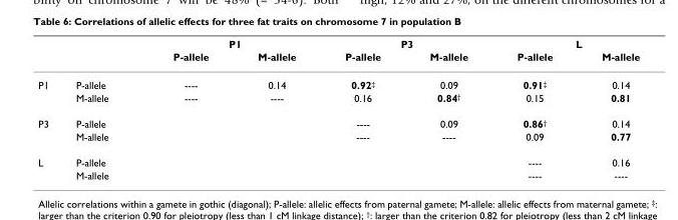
<table><thead><tr><td rowspan="2"></td><td rowspan="2"></td><td colspan="2">P1</td><td colspan="2">P3</td><td colspan="2">L</td></tr><tr><td>P-allele</td><td>M-allele</td><td>P-allele</td><td>M-allele</td><td>P-allele</td><td>M-allele</td></tr></thead><tbody><tr><td rowspan="2">P1</td><td>P-allele</td><td>----</td><td>0.14</td><td>0.92<sup>‡</sup></td><td>0.09</td><td>0.91<sup>‡</sup></td><td>0.14</td></tr><tr><td>M-allele</td><td>----</td><td>----</td><td>0.16</td><td>0.84<sup>†</sup></td><td>0.15</td><td>0.81</td></tr><tr><td rowspan="2">P3</td><td>P-allele</td><td></td><td></td><td>----</td><td>0.09</td><td>0.86<sup>†</sup></td><td>0.14</td></tr><tr><td>M-allele</td><td></td><td></td><td>----</td><td>----</td><td>0.09</td><td>0.77</td></tr><tr><td rowspan="2">L</td><td>P-allele</td><td></td><td></td><td></td><td></td><td>----</td><td>0.16</td></tr><tr><td>M-allele</td><td></td><td></td><td></td><td></td><td>----</td><td>----</td></tr></tbody></table>